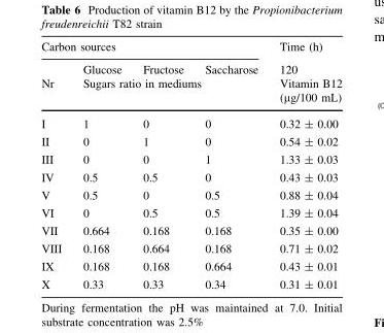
<table><thead><tr><td colspan="4">Carbon sources</td><td rowspan="3">Time (h) 120 Vitamin B12 (µg/100 mL)</td></tr><tr><td rowspan="2">Nr</td><td>Glucose</td><td>Fructose</td><td>Saccharose</td></tr><tr><td colspan="3">Sugars ratio in mediums</td></tr></thead><tbody><tr><td>I</td><td>1</td><td>0</td><td>0</td><td>0.32 ± 0.00</td></tr><tr><td>II</td><td>0</td><td>1</td><td>0</td><td>0.54 ± 0.02</td></tr><tr><td>III</td><td>0</td><td>0</td><td>1</td><td>1.33 ± 0.03</td></tr><tr><td>IV</td><td>0.5</td><td>0.5</td><td>0</td><td>0.43 ± 0.03</td></tr><tr><td>V</td><td>0.5</td><td>0</td><td>0.5</td><td>0.88 ± 0.04</td></tr><tr><td>VI</td><td>0</td><td>0.5</td><td>0.5</td><td>1.39 ± 0.04</td></tr><tr><td>VII</td><td>0.664</td><td>0.168</td><td>0.168</td><td>0.35 ± 0.00</td></tr><tr><td>VIII</td><td>0.168</td><td>0.664</td><td>0.168</td><td>0.71 ± 0.02</td></tr><tr><td>IX</td><td>0.168</td><td>0.168</td><td>0.664</td><td>0.43 ± 0.01</td></tr><tr><td>X</td><td>0.33</td><td>0.33</td><td>0.34</td><td>0.31 ± 0.01</td></tr></tbody></table>